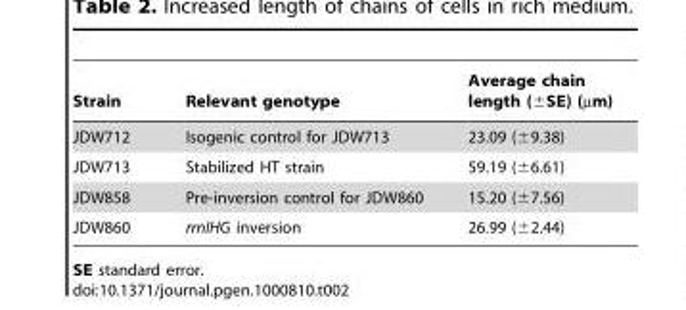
<table><thead><tr><td>Strain</td><td>Relevant genotype</td><td>Average chain length (±SE) (µm)</td></tr></thead><tbody><tr><td>JDW712</td><td>Isogenic control for JDW713</td><td>23.09 (±9.38)</td></tr><tr><td>JDW713</td><td>Stabilized HT strain</td><td>59.19 (±6.61)</td></tr><tr><td>JDW858</td><td>Pre-inversion control for JDW860</td><td>15.20 (±7.56)</td></tr><tr><td>JDW860</td><td>rrnIHG inversion</td><td>26.99 (±2.44)</td></tr></tbody></table>